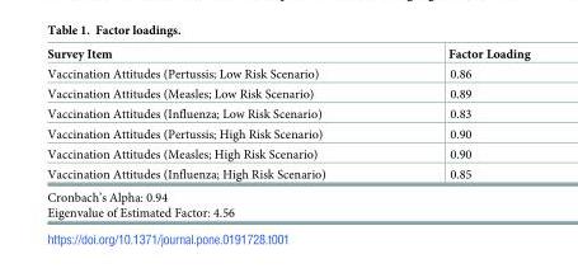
<table><thead><tr><td>Survey Item</td><td>Factor Loading</td></tr></thead><tbody><tr><td>Vaccination Attitudes (Pertussis; Low Risk Scenario)</td><td>0.86</td></tr><tr><td>Vaccination Attitudes (Measles; Low Risk Scenario)</td><td>0.89</td></tr><tr><td>Vaccination Attitudes (Influenza; Low Risk Scenario)</td><td>0.83</td></tr><tr><td>Vaccination Attitudes (Pertussis; High Risk Scenario)</td><td>0.90</td></tr><tr><td>Vaccination Attitudes (Measles; High Risk Scenario)</td><td>0.90</td></tr><tr><td>Vaccination Attitudes (Influenza; High Risk Scenario)</td><td>0.85</td></tr><tr><td colspan="2">Cronbach’s Alpha: 0.94 Eigenvalue of Estimated Factor: 4.56</td></tr></tbody></table>